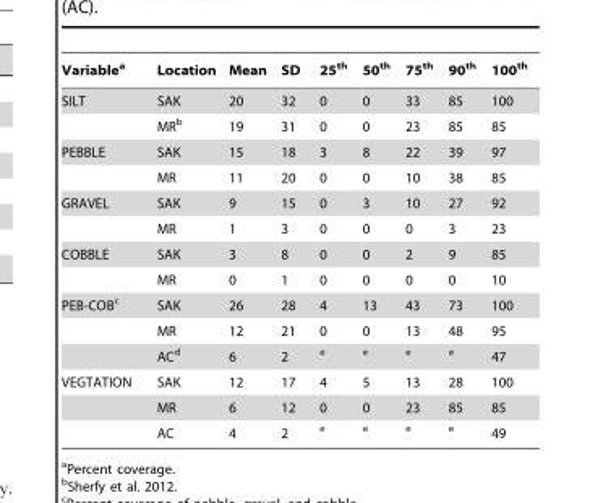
<table><thead><tr><td>Variable<sup>a</sup></td><td>Location</td><td>Mean</td><td>SD</td><td>25<sup>th</sup></td><td>50<sup>th</sup></td><td>75<sup>th</sup></td><td>90<sup>th</sup></td><td>100<sup>th</sup></td></tr></thead><tbody><tr><td rowspan="2">SILT</td><td>SAK</td><td>20</td><td>32</td><td>0</td><td>0</td><td>33</td><td>85</td><td>100</td></tr><tr><td>MR<sup>b</sup></td><td>19</td><td>31</td><td>0</td><td>0</td><td>23</td><td>85</td><td>85</td></tr><tr><td rowspan="2">PEBBLE</td><td>SAK</td><td>15</td><td>18</td><td>3</td><td>8</td><td>22</td><td>39</td><td>97</td></tr><tr><td>MR</td><td>11</td><td>20</td><td>0</td><td>0</td><td>10</td><td>38</td><td>85</td></tr><tr><td rowspan="2">GRAVEL</td><td>SAK</td><td>9</td><td>15</td><td>0</td><td>3</td><td>10</td><td>27</td><td>92</td></tr><tr><td>MR</td><td>1</td><td>3</td><td>0</td><td>0</td><td>0</td><td>3</td><td>23</td></tr><tr><td rowspan="2">COBBLE</td><td>SAK</td><td>3</td><td>8</td><td>0</td><td>0</td><td>2</td><td>9</td><td>85</td></tr><tr><td>MR</td><td>0</td><td>1</td><td>0</td><td>0</td><td>0</td><td>0</td><td>10</td></tr><tr><td rowspan="3">PEB-COB<sup>c</sup></td><td>SAK</td><td>26</td><td>28</td><td>4</td><td>13</td><td>43</td><td>73</td><td>100</td></tr><tr><td>MR</td><td>12</td><td>21</td><td>0</td><td>0</td><td>13</td><td>48</td><td>95</td></tr><tr><td>AC<sup>d</sup></td><td>6</td><td>2</td><td>e</td><td>e</td><td>e</td><td>e</td><td>47</td></tr><tr><td rowspan="3">VEGTATION</td><td>SAK</td><td>12</td><td>17</td><td>4</td><td>5</td><td>13</td><td>28</td><td>100</td></tr><tr><td>MR</td><td>6</td><td>12</td><td>0</td><td>0</td><td>23</td><td>85</td><td>85</td></tr><tr><td>AC</td><td>4</td><td>2</td><td>e</td><td>e</td><td>e</td><td>e</td><td>49</td></tr></tbody></table>